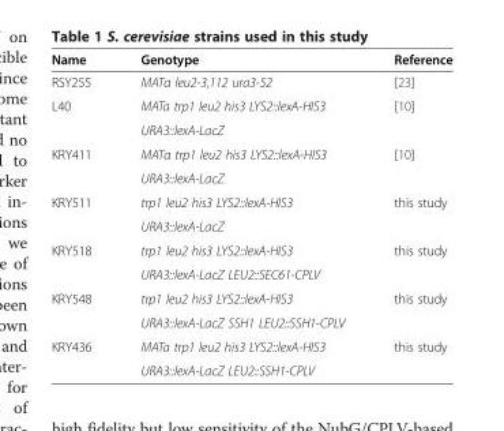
<table><thead><tr><td>Name</td><td>Genotype</td><td>Reference</td></tr></thead><tbody><tr><td>RSY255</td><td>MATα leu2-3,112 ura3-52</td><td>[23]</td></tr><tr><td rowspan="2">L40</td><td>MATa trp1 leu2 his3 LYS2::lexA-HIS3</td><td rowspan="2">[10]</td></tr><tr><td>URA3::lexA-LacZ</td></tr><tr><td rowspan="2">KRY411</td><td>MATα trp1 leu2 his3 LYS2::lexA-HIS3</td><td rowspan="2">[10]</td></tr><tr><td>URA3::lexA-LacZ</td></tr><tr><td rowspan="2">KRY511</td><td>trp1 leu2 his3 LYS2::lexA-HIS3</td><td rowspan="2">this study</td></tr><tr><td>URA3::lexA-LacZ</td></tr><tr><td rowspan="2">KRY518</td><td>trp1 leu2 his3 LYS2::lexA-HIS3</td><td rowspan="2">this study</td></tr><tr><td>URA3::lexA-LacZ LEU2::SEC61-CPLV</td></tr><tr><td rowspan="2">KRY548</td><td>trp1 leu2 his3 LYS2::lexA-HIS3</td><td rowspan="2">this study</td></tr><tr><td>URA3::lexA-LacZ SSH1 LEU2::SSH1-CPLV</td></tr><tr><td rowspan="2">KRY436</td><td>MATa trp1 leu2 his3 LYS2::lexA-HIS3</td><td>this study</td></tr><tr><td>URA3::lexA-LacZ LEU2::SSH1-CPLV</td><td></td></tr></tbody></table>